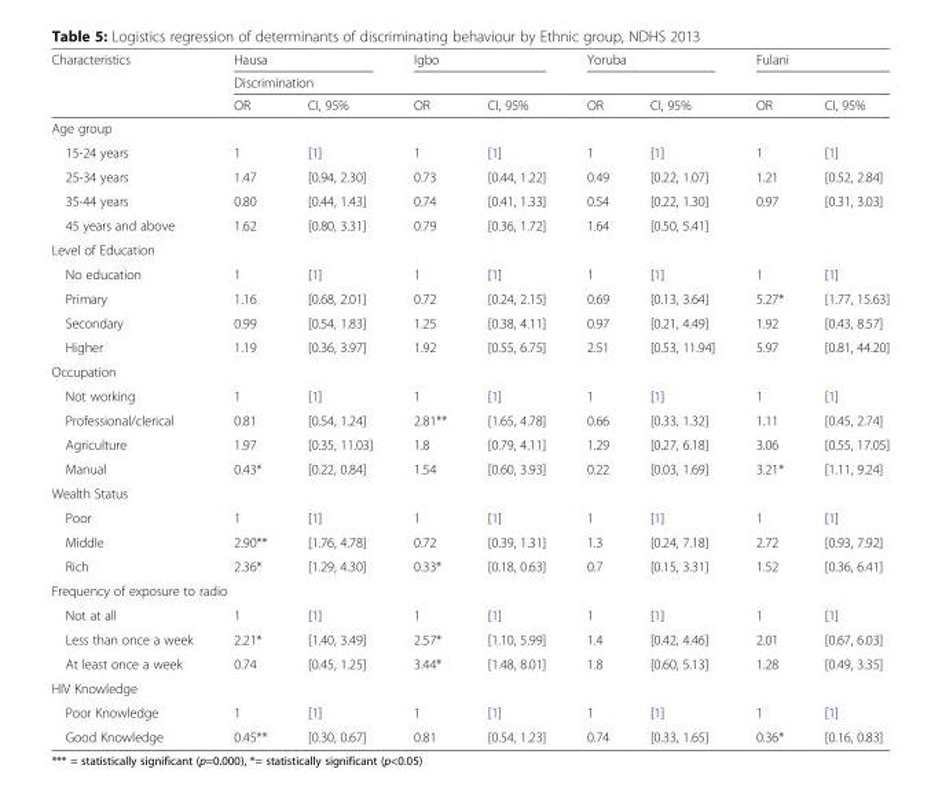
<table><thead><tr><td rowspan="3">Characteristics</td><td colspan="2">Hausa</td><td colspan="2">Igbo</td><td colspan="2">Yoruba</td><td colspan="2">Fulani</td></tr><tr><td colspan="8">Discrimination</td></tr><tr><td>OR</td><td>CI, 95%</td><td>OR</td><td>CI, 95%</td><td>OR</td><td>CI, 95%</td><td>OR</td><td>CI, 95%</td></tr></thead><tbody><tr><td colspan="9">Age group</td></tr><tr><td>15-24 years</td><td>1</td><td>[1]</td><td>1</td><td>[1]</td><td>1</td><td>[1]</td><td>1</td><td>[1]</td></tr><tr><td>25-34 years</td><td>1.47</td><td>[0.94, 2.30]</td><td>0.73</td><td>[0.44, 1.22]</td><td>0.49</td><td>[0.22, 1.07]</td><td>1.21</td><td>[0.52, 2.84]</td></tr><tr><td>35-44 years</td><td>0.80</td><td>[0.44, 1.43]</td><td>0.74</td><td>[0.41, 1.33]</td><td>0.54</td><td>[0.22, 1.30]</td><td>0.97</td><td>[0.31, 3.03]</td></tr><tr><td>45 years and above</td><td>1.62</td><td>[0.80, 3.31]</td><td>0.79</td><td>[0.36, 1.72]</td><td>1.64</td><td>[0.50, 5.41]</td><td></td><td></td></tr><tr><td colspan="9">Level of Education</td></tr><tr><td>No education</td><td>1</td><td>[1]</td><td>1</td><td>[1]</td><td>1</td><td>[1]</td><td>1</td><td>[1]</td></tr><tr><td>Primary</td><td>1.16</td><td>[0.68, 2.01]</td><td>0.72</td><td>[0.24, 2.15]</td><td>0.69</td><td>[0.13, 3.64]</td><td>5.27*</td><td>[1.77, 15.63]</td></tr><tr><td>Secondary</td><td>0.99</td><td>[0.54, 1.83]</td><td>1.25</td><td>[0.38, 4.11]</td><td>0.97</td><td>[0.21, 4.49]</td><td>1.92</td><td>[0.43, 8.57]</td></tr><tr><td>Higher</td><td>1.19</td><td>[0.36, 3.97]</td><td>1.92</td><td>[0.55, 6.75]</td><td>2.51</td><td>[0.53, 11.94]</td><td>5.97</td><td>[0.81, 44.20]</td></tr><tr><td colspan="9">Occupation</td></tr><tr><td>Not working</td><td>1</td><td>[1]</td><td>1</td><td>[1]</td><td>1</td><td>[1]</td><td>1</td><td>[1]</td></tr><tr><td>Professional/clerical</td><td>0.81</td><td>[0.54, 1.24]</td><td>2.81**</td><td>[1.65, 4.78]</td><td>0.66</td><td>[0.33, 1.32]</td><td>1.11</td><td>[0.45, 2.74]</td></tr><tr><td>Agriculture</td><td>1.97</td><td>[0.35, 11.03]</td><td>1.8</td><td>[0.79, 4.11]</td><td>1.29</td><td>[0.27, 6.18]</td><td>3.06</td><td>[0.55, 17.05]</td></tr><tr><td>Manual</td><td>0.43*</td><td>[0.22, 0.84]</td><td>1.54</td><td>[0.60, 3.93]</td><td>0.22</td><td>[0.03, 1.69]</td><td>3.21*</td><td>[1.11, 9.24]</td></tr><tr><td colspan="9">Wealth Status</td></tr><tr><td>Poor</td><td>1</td><td>[1]</td><td>1</td><td>[1]</td><td>1</td><td>[1]</td><td>1</td><td>[1]</td></tr><tr><td>Middle</td><td>2.90**</td><td>[1.76, 4.78]</td><td>0.72</td><td>[0.39, 1.31]</td><td>1.3</td><td>[0.24, 7.18]</td><td>2.72</td><td>[0.93, 7.92]</td></tr><tr><td>Rich</td><td>2.36*</td><td>[1.29, 4.30]</td><td>0.33*</td><td>[0.18, 0.63]</td><td>0.7</td><td>[0.15, 3.31]</td><td>1.52</td><td>[0.36, 6.41]</td></tr><tr><td colspan="9">Frequency of exposure to radio</td></tr><tr><td>Not at all</td><td>1</td><td>[1]</td><td>1</td><td>[1]</td><td>1</td><td>[1]</td><td>1</td><td>[1]</td></tr><tr><td>Less than once a week</td><td>2.21*</td><td>[1.40, 3.49]</td><td>2.57*</td><td>[1.10, 5.99]</td><td>1.4</td><td>[0.42, 4.46]</td><td>2.01</td><td>[0.67, 6.03]</td></tr><tr><td>At least once a week</td><td>0.74</td><td>[0.45, 1.25]</td><td>3.44*</td><td>[1.48, 8.01]</td><td>1.8</td><td>[0.60, 5.13]</td><td>1.28</td><td>[0.49, 3.35]</td></tr><tr><td colspan="9">HIV Knowledge</td></tr><tr><td>Poor Knowledge</td><td>1</td><td>[1]</td><td>1</td><td>[1]</td><td>1</td><td>[1]</td><td>1</td><td>[1]</td></tr><tr><td>Good Knowledge</td><td>0.45**</td><td>[0.30, 0.67]</td><td>0.81</td><td>[0.54, 1.23]</td><td>0.74</td><td>[0.33, 1.65]</td><td>0.36*</td><td>[0.16, 0.83]</td></tr></tbody></table>